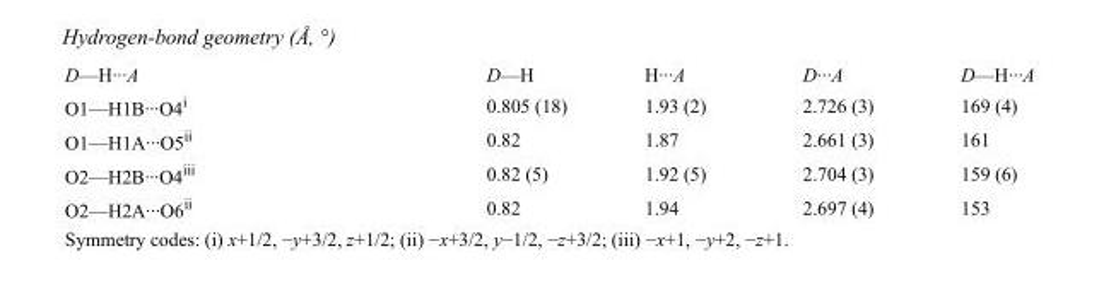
<table><tbody><tr><td>D—H···A</td><td>D—H</td><td>H···A</td><td>D···A</td><td>D—H···A</td></tr><tr><td>O1—H1B···O4i</td><td>0.805 (18)</td><td>1.93 (2)</td><td>2.726 (3)</td><td>169 (4)</td></tr><tr><td>O1—H1A···O5ii</td><td>0.82</td><td>1.87</td><td>2.661 (3)</td><td>161</td></tr><tr><td>O2—H2B···O4iii</td><td>0.82 (5)</td><td>1.92 (5)</td><td>2.704 (3)</td><td>159 (6)</td></tr><tr><td>O2—H2A···O6ii</td><td>0.82</td><td>1.94</td><td>2.697 (4)</td><td>153</td></tr></tbody></table>